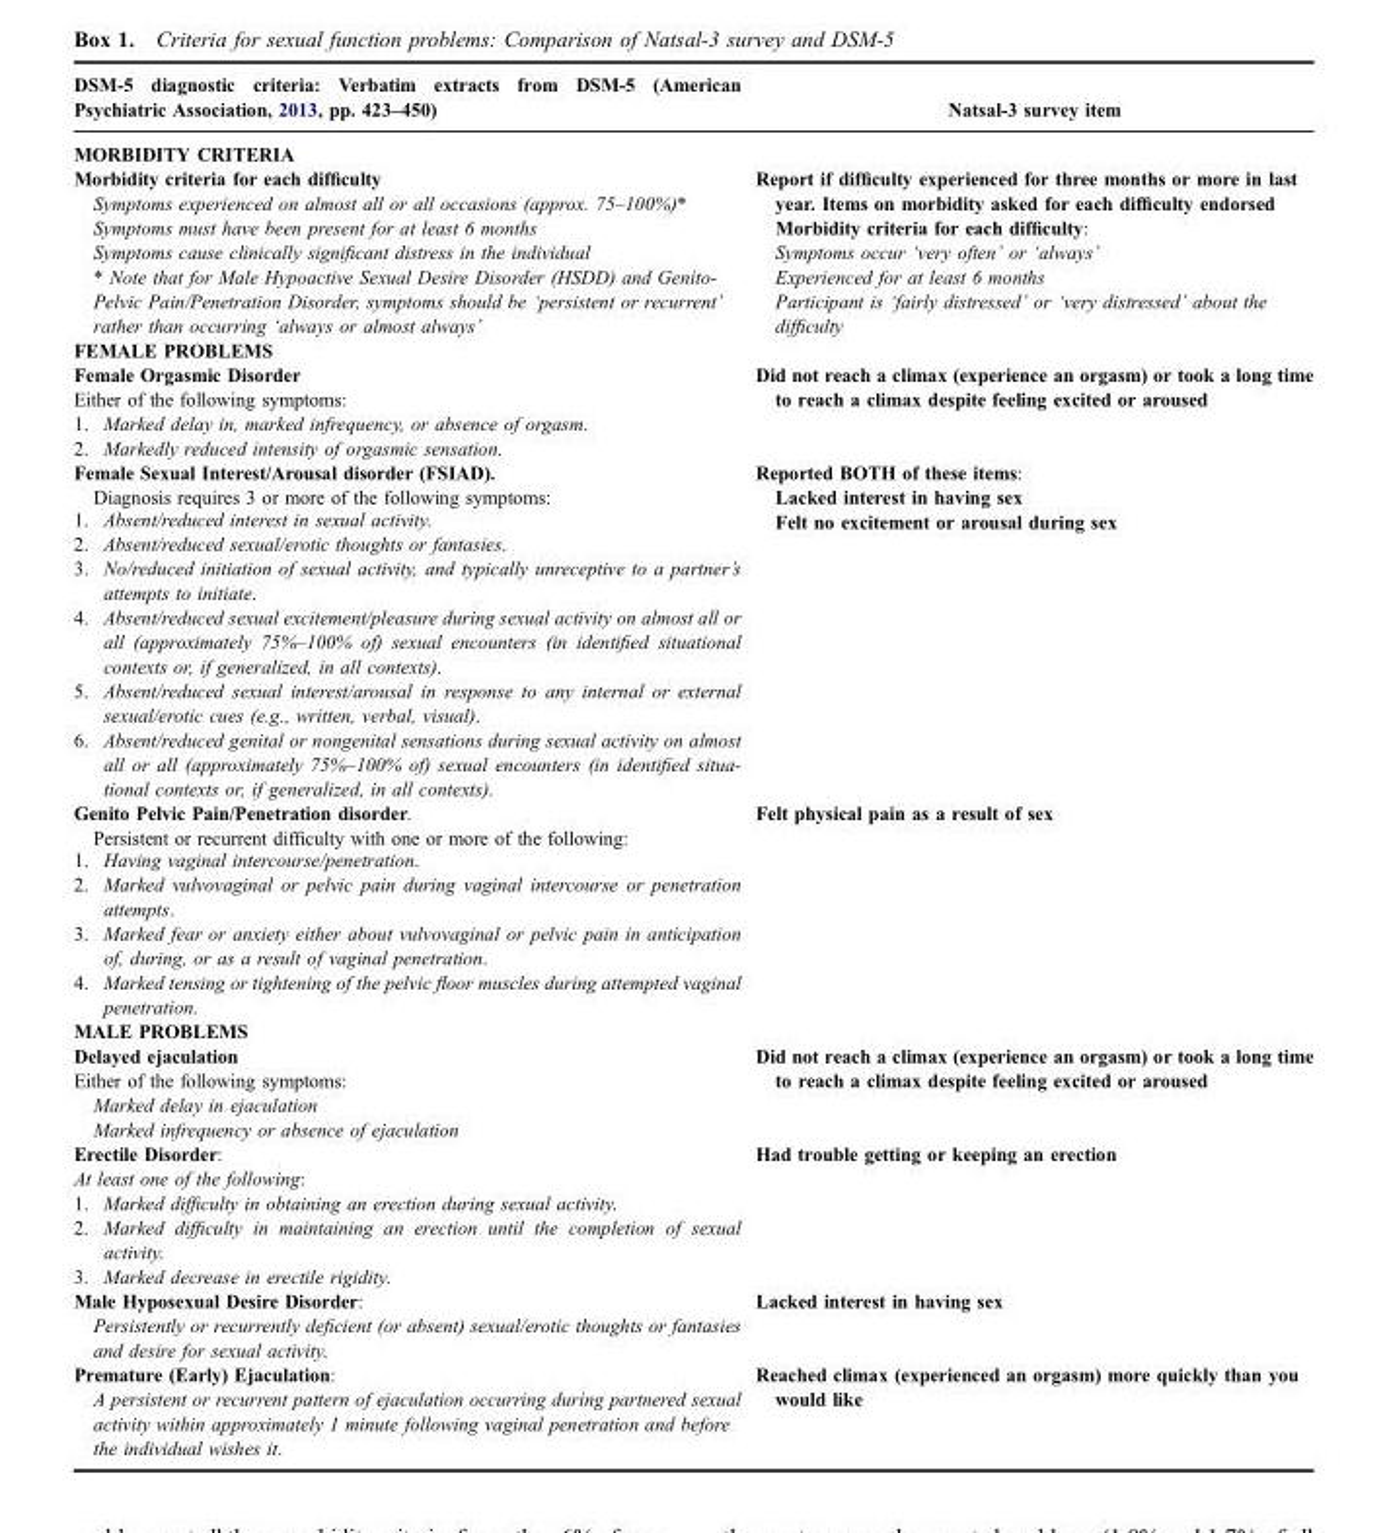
<table><thead><tr><td>DSM-5 diagnostic criteria: Verbatim extracts from DSM-5 (American Psychiatric Association, 2013, pp. 423‒450)</td><td>Natsal-3 survey item</td></tr></thead><tbody><tr><td colspan="2">MORBIDITY CRITERIA</td></tr><tr><td>Morbidity criteria for each difficulty Symptoms experienced on almost all or all occasions (approx. 75–100%)* Symptoms must have been present for at least 6 months Symptoms cause clinically significant distress in the individual * Note that for Male Hypoactive Sexual Desire Disorder (HSDD) and Genito- Pelvic Pain/Penetration Disorder, symptoms should be ‘persistent or recurrent’ rather than occurring ‘always or almost always’</td><td>Report if difficulty experienced for three months or more in last year. Items on morbidity asked for each difficulty endorsed Morbidity criteria for each difficulty: Symptoms occur ‘very often’ or ‘always’ Experienced for at least 6 months Participant is ‘fairly distressed’ or ‘very distressed’ about the difficulty</td></tr><tr><td colspan="2">FEMALE PROBLEMS</td></tr><tr><td>Female Orgasmic Disorder Either of the following symptoms: 1. Marked delay in, marked infrequency, or absence of orgasm. 2. Markedly reduced intensity of orgasmic sensation.</td><td>Did not reach a climax (experience an orgasm) or took a long time to reach a climax despite feeling excited or aroused</td></tr><tr><td>Female Sexual Interest/Arousal disorder (FSIAD). Diagnosis requires 3 or more of the following symptoms: 1. Absent/reduced interest in sexual activity. 2. Absent/reduced sexual/erotic thoughts or fantasies. 3. No/reduced initiation of sexual activity, and typically unreceptive to a partner’s attempts to initiate. 4. Absent/reduced sexual excitement/pleasure during sexual activity on almost all or all (approximately 75%–100% of) sexual encounters (in identified situational contexts or, if generalized, in all contexts). 5. Absent/reduced sexual interest/arousal in response to any internal or external sexual/erotic cues (e.g., written, verbal, visual). 6. Absent/reduced genital or nongenital sensations during sexual activity on almost all or all (approximately 75%–100% of) sexual encounters (in identified situa- tional contexts or, if generalized, in all contexts).</td><td>Reported BOTH of these items: Lacked interest in having sex Felt no excitement or arousal during sex</td></tr><tr><td>Genito Pelvic Pain/Penetration disorder. Persistent or recurrent difficulty with one or more of the following: 1. Having vaginal intercourse/penetration. 2. Marked vulvovaginal or pelvic pain during vaginal intercourse or penetration attempts. 3. Marked fear or anxiety either about vulvovaginal or pelvic pain in anticipation of, during, or as a result of vaginal penetration. 4. Marked tensing or tightening of the pelvic floor muscles during attempted vaginal penetration.</td><td>Felt physical pain as a result of sex</td></tr><tr><td colspan="2">MALE PROBLEMS</td></tr><tr><td>Delayed ejaculation Either of the following symptoms: Marked delay in ejaculation Marked infrequency or absence of ejaculation</td><td>Did not reach a climax (experience an orgasm) or took a long time to reach a climax despite feeling excited or aroused</td></tr><tr><td>Erectile Disorder: At least one of the following: 1. Marked difficulty in obtaining an erection during sexual activity. 2. Marked difficulty in maintaining an erection until the completion of sexual activity. 3. Marked decrease in erectile rigidity.</td><td>Had trouble getting or keeping an erection</td></tr><tr><td>Male Hyposexual Desire Disorder: Persistently or recurrently deficient (or absent) sexual/erotic thoughts or fantasies and desire for sexual activity.</td><td>Lacked interest in having sex</td></tr><tr><td>Premature (Early) Ejaculation: A persistent or recurrent pattern of ejaculation occurring during partnered sexual activity within approximately 1 minute following vaginal penetration and before the individual wishes it.</td><td>Reached climax (experienced an orgasm) more quickly than you would like</td></tr></tbody></table>